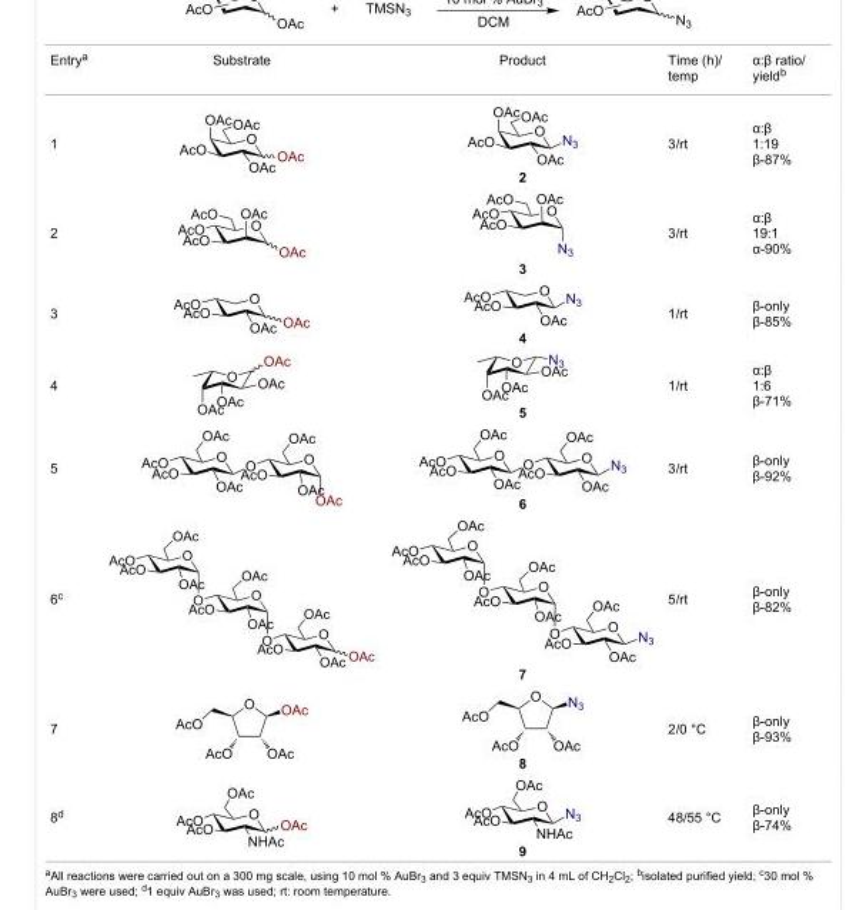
<table><tbody><tr><td>Entry<sup>a</sup></td><td>Substrate</td><td>Product</td><td>Time (h)/ temp</td><td>α:β ratio/ yield<sup>b</sup></td></tr><tr><td>1</td><td></td><td>2</td><td>3/rt</td><td>α:β 1:19 β-87%</td></tr><tr><td>2</td><td></td><td>3</td><td>3/rt</td><td>α:β 19:1 α-90%</td></tr><tr><td>3</td><td></td><td>4</td><td>1/rt</td><td>β-only β-85%</td></tr><tr><td>4</td><td></td><td>5</td><td>1/rt</td><td>α:β 1:6 β-71%</td></tr><tr><td>5</td><td></td><td>6</td><td>3/rt</td><td>β-only β-92%</td></tr><tr><td>6<sup>c</sup></td><td></td><td>7</td><td>5/rt</td><td>β-only β-82%</td></tr><tr><td>7</td><td></td><td>8</td><td>2/0 °C</td><td>β-only β-93%</td></tr><tr><td>8<sup>d</sup></td><td></td><td>9</td><td>48/55 °C</td><td>β-only β-74%</td></tr></tbody></table>